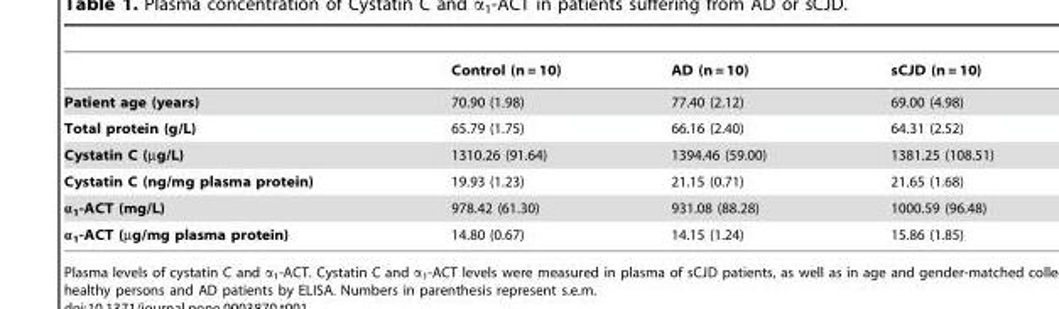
<table><thead><tr><td></td><td>Control (n = 10)</td><td>AD (n = 10)</td><td>sCJD (n = 10)</td></tr></thead><tbody><tr><td>Patient age (years)</td><td>70.90 (1.98)</td><td>77.40 (2.12)</td><td>69.00 (4.98)</td></tr><tr><td>Total protein (g/L)</td><td>65.79 (1.75)</td><td>66.16 (2.40)</td><td>64.31 (2.52)</td></tr><tr><td>Cystatin C (µg/L)</td><td>1310.26 (91.64)</td><td>1394.46 (59.00)</td><td>1381.25 (108.51)</td></tr><tr><td>Cystatin C (ng/mg plasma protein)</td><td>19.93 (1.23)</td><td>21.15 (0.71)</td><td>21.65 (1.68)</td></tr><tr><td>α<sub>1</sub>-ACT (mg/L)</td><td>978.42 (61.30)</td><td>931.08 (88.28)</td><td>1000.59 (96.48)</td></tr><tr><td>α<sub>1</sub>-ACT (µg/mg plasma protein)</td><td>14.80 (0.67)</td><td>14.15 (1.24)</td><td>15.86 (1.85)</td></tr></tbody></table>